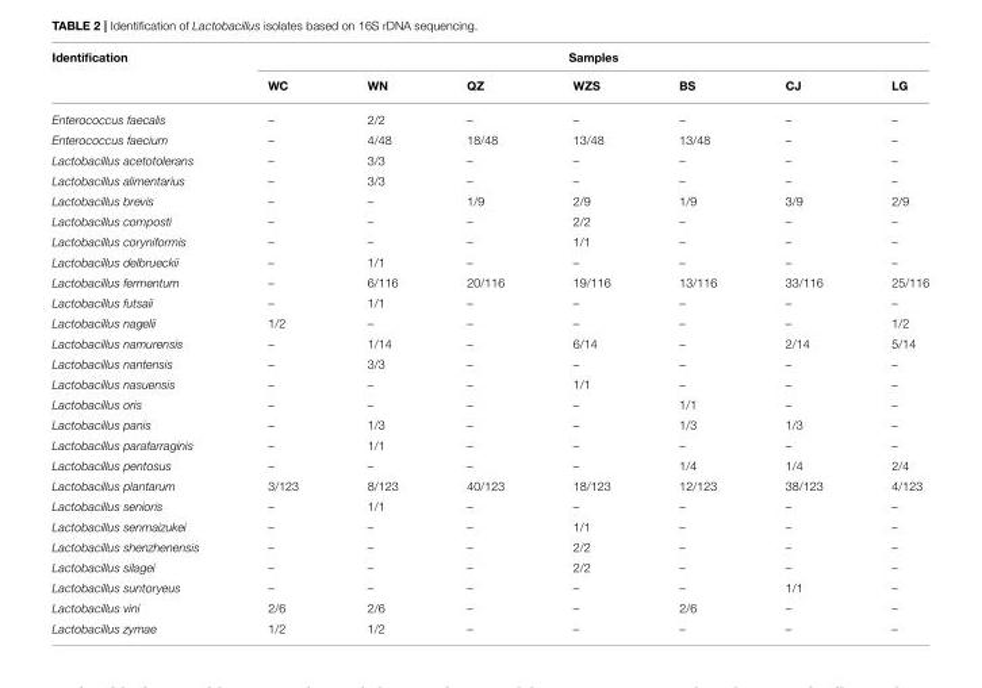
<table><thead><tr><td rowspan="2">Identification</td><td colspan="7">Samples</td></tr><tr><td>WC</td><td>WN</td><td>QZ</td><td>WZS</td><td>BS</td><td>CJ</td><td>LG</td></tr></thead><tbody><tr><td>Enterococcus faecalis</td><td>–</td><td>2/2</td><td>–</td><td>–</td><td>–</td><td>–</td><td>–</td></tr><tr><td>Enterococcus faecium</td><td>–</td><td>4/48</td><td>18/48</td><td>13/48</td><td>13/48</td><td>–</td><td>–</td></tr><tr><td>Lactobacillus acetotolerans</td><td>–</td><td>3/3</td><td>–</td><td>–</td><td>–</td><td>–</td><td>–</td></tr><tr><td>Lactobacillus alimentarius</td><td>–</td><td>3/3</td><td>–</td><td>–</td><td>–</td><td>–</td><td>–</td></tr><tr><td>Lactobacillus brevis</td><td>–</td><td>–</td><td>1/9</td><td>2/9</td><td>1/9</td><td>3/9</td><td>2/9</td></tr><tr><td>Lactobacillus composti</td><td>–</td><td>–</td><td>–</td><td>2/2</td><td>–</td><td>–</td><td>–</td></tr><tr><td>Lactobacillus coryniformis</td><td>–</td><td>–</td><td>–</td><td>1/1</td><td>–</td><td>–</td><td>–</td></tr><tr><td>Lactobacillus delbrueckii</td><td>–</td><td>1/1</td><td>–</td><td>–</td><td>–</td><td>–</td><td>–</td></tr><tr><td>Lactobacillus fermentum</td><td>–</td><td>6/116</td><td>20/116</td><td>19/116</td><td>13/116</td><td>33/116</td><td>25/116</td></tr><tr><td>Lactobacillus futsaii</td><td>–</td><td>1/1</td><td>–</td><td>–</td><td>–</td><td>–</td><td>–</td></tr><tr><td>Lactobacillus nagelii</td><td>1/2</td><td>–</td><td>–</td><td>–</td><td>–</td><td>–</td><td>1/2</td></tr><tr><td>Lactobacillus namurensis</td><td>–</td><td>1/14</td><td>–</td><td>6/14</td><td>–</td><td>2/14</td><td>5/14</td></tr><tr><td>Lactobacillus nantensis</td><td>–</td><td>3/3</td><td>–</td><td>–</td><td>–</td><td>–</td><td>–</td></tr><tr><td>Lactobacillus nasuensis</td><td>–</td><td>–</td><td>–</td><td>1/1</td><td>–</td><td>–</td><td>–</td></tr><tr><td>Lactobacillus oris</td><td>–</td><td>–</td><td>–</td><td>–</td><td>1/1</td><td>–</td><td>–</td></tr><tr><td>Lactobacillus panis</td><td>–</td><td>1/3</td><td>–</td><td>–</td><td>1/3</td><td>1/3</td><td>–</td></tr><tr><td>Lactobacillus parafarraginis</td><td>–</td><td>1/1</td><td>–</td><td>–</td><td>–</td><td>–</td><td>–</td></tr><tr><td>Lactobacillus pentosus</td><td>–</td><td>–</td><td>–</td><td>–</td><td>1/4</td><td>1/4</td><td>2/4</td></tr><tr><td>Lactobacillus plantarum</td><td>3/123</td><td>8/123</td><td>40/123</td><td>18/123</td><td>12/123</td><td>38/123</td><td>4/123</td></tr><tr><td>Lactobacillus senioris</td><td>–</td><td>1/1</td><td>–</td><td>–</td><td>–</td><td>–</td><td>–</td></tr><tr><td>Lactobacillus senmaizukei</td><td>–</td><td>–</td><td>–</td><td>1/1</td><td>–</td><td>–</td><td>–</td></tr><tr><td>Lactobacillus shenzhenensis</td><td>–</td><td>–</td><td>–</td><td>2/2</td><td>–</td><td>–</td><td>–</td></tr><tr><td>Lactobacillus silagei</td><td>–</td><td>–</td><td>–</td><td>2/2</td><td>–</td><td>–</td><td>–</td></tr><tr><td>Lactobacillus suntoryeus</td><td>–</td><td>–</td><td>–</td><td>–</td><td>–</td><td>1/1</td><td>–</td></tr><tr><td>Lactobacillus vini</td><td>2/6</td><td>2/6</td><td>–</td><td>–</td><td>2/6</td><td>–</td><td>–</td></tr><tr><td>Lactobacillus zymae</td><td>1/2</td><td>1/2</td><td>–</td><td>–</td><td>–</td><td>–</td><td>–</td></tr></tbody></table>